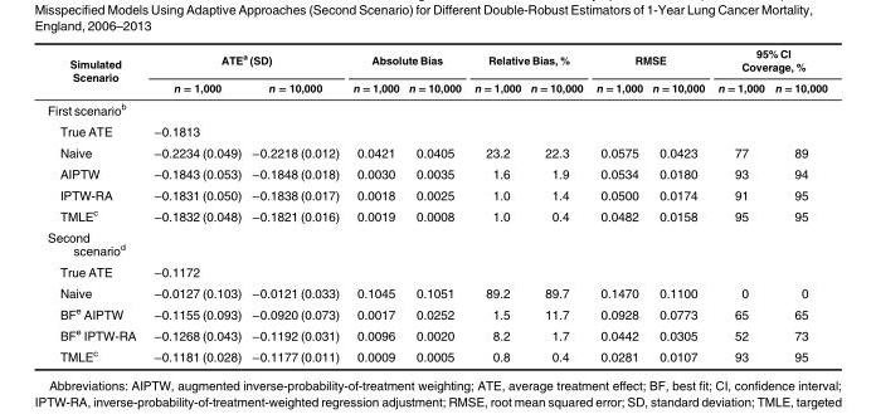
<table><thead><tr><td rowspan="2">Simulated Scenario</td><td colspan="2">ATE<sup>a</sup> (SD)</td><td colspan="2">Absolute Bias</td><td colspan="2">Relative Bias, %</td><td colspan="2">RMSE</td><td colspan="2">95% CI Coverage, %</td></tr><tr><td>n = 1,000</td><td>n = 10,000</td><td>n = 1,000</td><td>n = 10,000</td><td>n = 1,000</td><td>n = 10,000</td><td>n = 1,000</td><td>n = 10,000</td><td>n = 1,000</td><td>n = 10,000</td></tr></thead><tbody><tr><td colspan="11">First scenario<sup>b</sup></td></tr><tr><td>True ATE</td><td>−0.1813</td><td></td><td></td><td></td><td></td><td></td><td></td><td></td><td></td><td></td></tr><tr><td>Naive</td><td>−0.2234 (0.049)</td><td>−0.2218 (0.012)</td><td>0.0421</td><td>0.0405</td><td>23.2</td><td>22.3</td><td>0.0575</td><td>0.0423</td><td>77</td><td>89</td></tr><tr><td>AIPTW</td><td>−0.1843 (0.053)</td><td>−0.1848 (0.018)</td><td>0.0030</td><td>0.0035</td><td>1.6</td><td>1.9</td><td>0.0534</td><td>0.0180</td><td>93</td><td>94</td></tr><tr><td>IPTW-RA</td><td>−0.1831 (0.050)</td><td>−0.1838 (0.017)</td><td>0.0018</td><td>0.0025</td><td>1.0</td><td>1.4</td><td>0.0500</td><td>0.0174</td><td>91</td><td>95</td></tr><tr><td>TMLE<sup>c</sup></td><td>−0.1832 (0.048)</td><td>−0.1821 (0.016)</td><td>0.0019</td><td>0.0008</td><td>1.0</td><td>0.4</td><td>0.0482</td><td>0.0158</td><td>95</td><td>95</td></tr><tr><td colspan="11">Second scenario<sup>d</sup></td></tr><tr><td>True ATE</td><td>−0.1172</td><td></td><td></td><td></td><td></td><td></td><td></td><td></td><td></td><td></td></tr><tr><td>Naive</td><td>−0.0127 (0.103)</td><td>−0.0121 (0.033)</td><td>0.1045</td><td>0.1051</td><td>89.2</td><td>89.7</td><td>0.1470</td><td>0.1100</td><td>0</td><td>0</td></tr><tr><td>BF<sup>e</sup> AIPTW</td><td>−0.1155 (0.093)</td><td>−0.0920 (0.073)</td><td>0.0017</td><td>0.0252</td><td>1.5</td><td>11.7</td><td>0.0928</td><td>0.0773</td><td>65</td><td>65</td></tr><tr><td>BF<sup>e</sup> IPTW-RA</td><td>−0.1268 (0.043)</td><td>−0.1192 (0.031)</td><td>0.0096</td><td>0.0020</td><td>8.2</td><td>1.7</td><td>0.0442</td><td>0.0305</td><td>52</td><td>73</td></tr><tr><td>TMLE<sup>c</sup></td><td>−0.1181 (0.028)</td><td>−0.1177 (0.011)</td><td>0.0009</td><td>0.0005</td><td>0.8</td><td>0.4</td><td>0.0281</td><td>0.0107</td><td>93</td><td>95</td></tr></tbody></table>